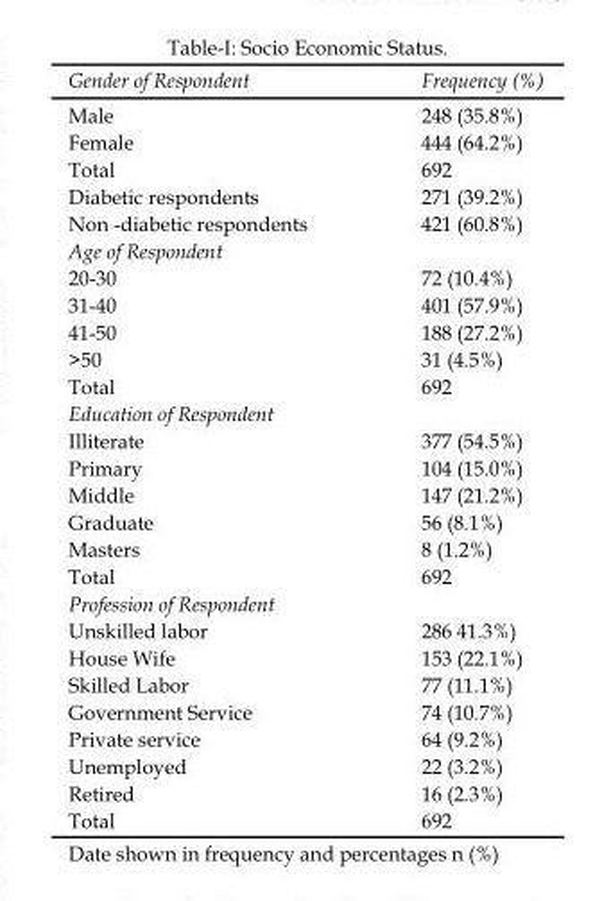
<table><thead><tr><td>Gender of Respondent</td><td>Frequency (%)</td></tr></thead><tbody><tr><td>Male</td><td>248 (35.8%)</td></tr><tr><td>Female</td><td>444 (64.2%)</td></tr><tr><td>Total</td><td>692</td></tr><tr><td>Diabetic respondents</td><td>271 (39.2%)</td></tr><tr><td>Non -diabetic respondents</td><td>421 (60.8%)</td></tr><tr><td colspan="2">Age of Respondent</td></tr><tr><td>20-30</td><td>72 (10.4%)</td></tr><tr><td>31-40</td><td>401 (57.9%)</td></tr><tr><td>41-50</td><td>188 (27.2%)</td></tr><tr><td>&gt;50</td><td>31 (4.5%)</td></tr><tr><td>Total</td><td>692</td></tr><tr><td colspan="2">Education of Respondent</td></tr><tr><td>Illiterate</td><td>377 (54.5%)</td></tr><tr><td>Primary</td><td>104 (15.0%)</td></tr><tr><td>Middle</td><td>147 (21.2%)</td></tr><tr><td>Graduate</td><td>56 (8.1%)</td></tr><tr><td>Masters</td><td>8 (1.2%)</td></tr><tr><td>Total</td><td>692</td></tr><tr><td colspan="2">Profession of Respondent</td></tr><tr><td>Unskilled labor</td><td>286 41.3%)</td></tr><tr><td>House Wife</td><td>153 (22.1%)</td></tr><tr><td>Skilled Labor</td><td>77 (11.1%)</td></tr><tr><td>Government Service</td><td>74 (10.7%)</td></tr><tr><td>Private service</td><td>64 (9.2%)</td></tr><tr><td>Unemployed</td><td>22 (3.2%)</td></tr><tr><td>Retired</td><td>16 (2.3%)</td></tr><tr><td>Total</td><td>692</td></tr></tbody></table>